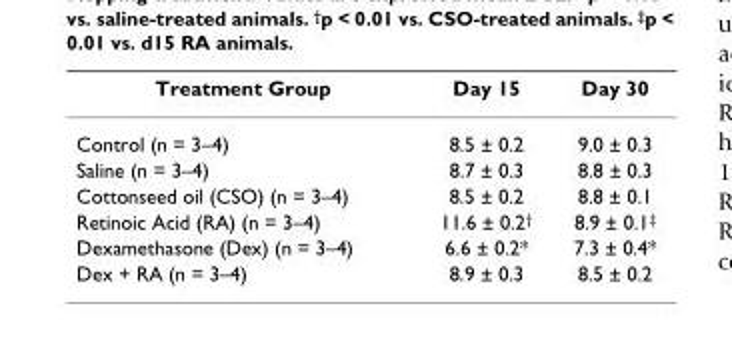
<table><thead><tr><td>Treatment Group</td><td>Day 15</td><td>Day 30</td></tr></thead><tbody><tr><td>Control (n = 3–4)</td><td>8.5 ± 0.2</td><td>9.0 ± 0.3</td></tr><tr><td>Saline (n = 3–4)</td><td>8.7 ± 0.3</td><td>8.8 ± 0.3</td></tr><tr><td>Cottonseed oil (CSO) (n = 3–4)</td><td>8.5 ± 0.2</td><td>8.8 ± 0.1</td></tr><tr><td>Retinoic Acid (RA) (n = 3–4)</td><td>11.6 ± 0.2<sup>†</sup></td><td>8.9 ± 0.1<sup>‡</sup></td></tr><tr><td>Dexamethasone (Dex) (n = 3–4)</td><td>6.6 ± 0.2*</td><td>7.3 ± 0.4*</td></tr><tr><td>Dex + RA (n = 3–4)</td><td>8.9 ± 0.3</td><td>8.5 ± 0.2</td></tr></tbody></table>